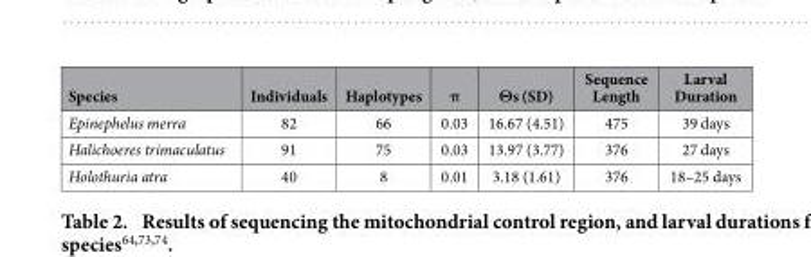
<table><thead><tr><td>Species</td><td>Individuals</td><td>Haplotypes</td><td>π</td><td>Θs (SD)</td><td>Sequence Length</td><td>Larval Duration</td></tr></thead><tbody><tr><td>Epinephelus merra</td><td>82</td><td>66</td><td>0.03</td><td>16.67 (4.51)</td><td>475</td><td>39 days</td></tr><tr><td>Halichoeres trimaculatus</td><td>91</td><td>75</td><td>0.03</td><td>13.97 (3.77)</td><td>376</td><td>27 days</td></tr><tr><td>Holothuria atra</td><td>40</td><td>8</td><td>0.01</td><td>3.18 (1.61)</td><td>376</td><td>18–25 days</td></tr></tbody></table>